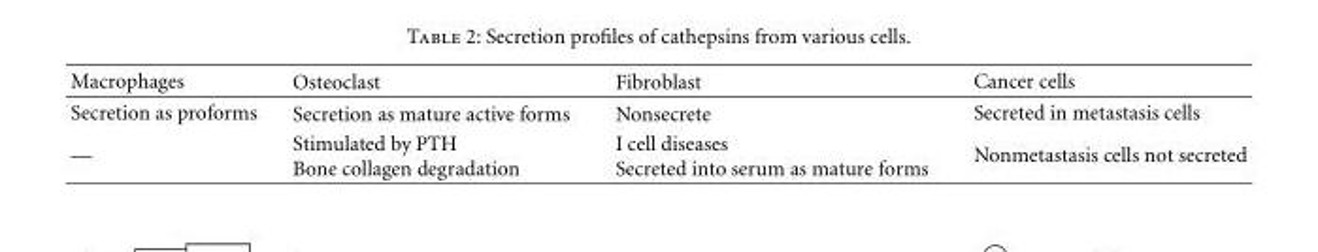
<table><thead><tr><td>Macrophages</td><td>Osteoclast</td><td>Fibroblast</td><td>Cancer cells</td></tr></thead><tbody><tr><td>Secretion as proforms</td><td>Secretion as mature active forms</td><td>Nonsecrete</td><td>Secreted in metastasis cells</td></tr><tr><td>—</td><td>Stimulated by PTH Bone collagen degradation</td><td>I cell diseases Secreted into serum as mature forms</td><td>Nonmetastasis cells not secreted</td></tr></tbody></table>